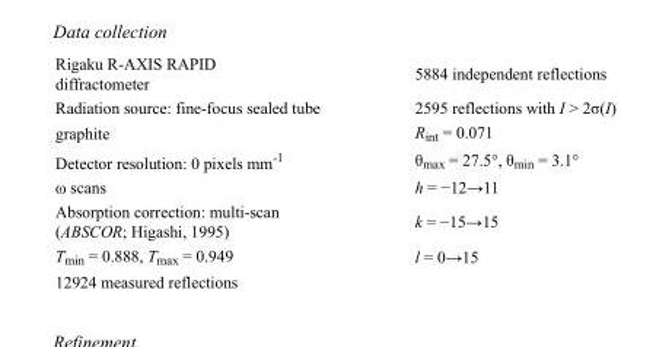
<table><tbody><tr><td>Rigaku R-AXIS RAPID diffractometer</td><td>5884 independent reflections</td></tr><tr><td>Radiation source: fine-focus sealed tube</td><td>2595 reflections with I &gt; 2σ(I)</td></tr><tr><td>graphite</td><td>R<sub>int</sub> = 0.071</td></tr><tr><td>Detector resolution: 0 pixels mm<sup>-1</sup></td><td>θ<sub>max</sub> = 27.5°, θ<sub>min</sub> = 3.1°</td></tr><tr><td>ω scans</td><td>h = −12→11</td></tr><tr><td>Absorption correction: multi-scan (ABSCOR; Higashi, 1995)</td><td>k = −15→15</td></tr><tr><td>T<sub>min</sub> = 0.888, T<sub>max</sub> = 0.949</td><td>l = 0→15</td></tr><tr><td>12924 measured reflections</td><td></td></tr></tbody></table>